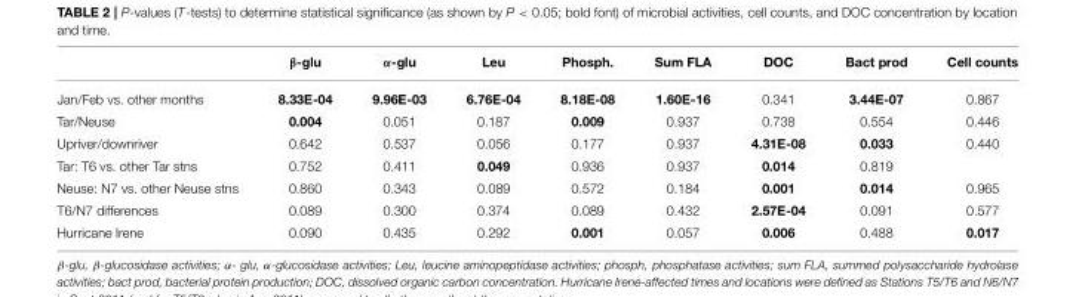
<table><thead><tr><td></td><td>β-glu</td><td>α-glu</td><td>Leu</td><td>Phosph.</td><td>Sum FLA</td><td>DOC</td><td>Bact prod</td><td>Cell counts</td></tr></thead><tbody><tr><td>Jan/Feb vs. other months</td><td>8.33E-04</td><td>9.96E-03</td><td>6.76E-04</td><td>8.18E-08</td><td>1.60E-16</td><td>0.341</td><td>3.44E-07</td><td>0.867</td></tr><tr><td>Tar/Neuse</td><td>0.004</td><td>0.051</td><td>0.187</td><td>0.009</td><td>0.937</td><td>0.738</td><td>0.554</td><td>0.446</td></tr><tr><td>Upriver/downriver</td><td>0.642</td><td>0.537</td><td>0.056</td><td>0.177</td><td>0.937</td><td>4.31E-08</td><td>0.033</td><td>0.440</td></tr><tr><td>Tar: T6 vs. other Tar stns</td><td>0.752</td><td>0.411</td><td>0.049</td><td>0.936</td><td>0.937</td><td>0.014</td><td>0.819</td><td></td></tr><tr><td>Neuse: N7 vs. other Neuse stns</td><td>0.860</td><td>0.343</td><td>0.089</td><td>0.572</td><td>0.184</td><td>0.001</td><td>0.014</td><td>0.965</td></tr><tr><td>T6/N7 differences</td><td>0.089</td><td>0.300</td><td>0.374</td><td>0.089</td><td>0.432</td><td>2.57E-04</td><td>0.091</td><td>0.577</td></tr><tr><td>Hurricane Irene</td><td>0.090</td><td>0.435</td><td>0.292</td><td>0.001</td><td>0.057</td><td>0.006</td><td>0.488</td><td>0.017</td></tr></tbody></table>